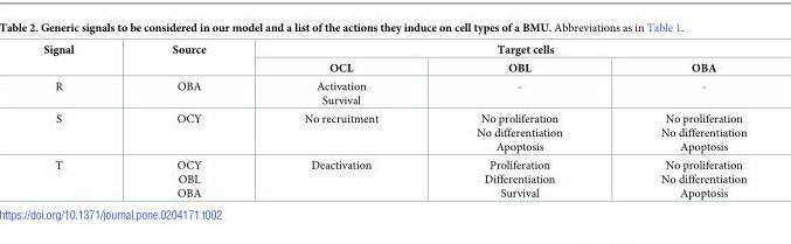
<table><thead><tr><td rowspan="2">Signal</td><td rowspan="2">Source</td><td colspan="3">Target cells</td></tr><tr><td>OCL</td><td>OBL</td><td>OBA</td></tr></thead><tbody><tr><td>R</td><td>OBA</td><td>Activation Survival</td><td>-</td><td>-</td></tr><tr><td>S</td><td>OCY</td><td>No recruitment</td><td>No proliferation No differentiation Apoptosis</td><td>No proliferation No differentiation Apoptosis</td></tr><tr><td>T</td><td>OCY OBL OBA</td><td>Deactivation</td><td>Proliferation Differentiation Survival</td><td>No proliferation No differentiation Apoptosis</td></tr></tbody></table>